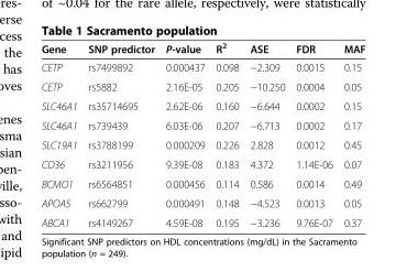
<table><thead><tr><td>Gene</td><td>SNP predictor</td><td>P-value</td><td>R<sup>2</sup></td><td>ASE</td><td>FDR</td><td>MAF</td></tr></thead><tbody><tr><td>CETP</td><td>rs7499892</td><td>0.000437</td><td>0.098</td><td>−2.309</td><td>0.0015</td><td>0.15</td></tr><tr><td>CETP</td><td>rs5882</td><td>2.16E-05</td><td>0.205</td><td>−10.250</td><td>0.0004</td><td>0.05</td></tr><tr><td>SLC46A1</td><td>rs35714695</td><td>2.62E-06</td><td>0.160</td><td>−6.644</td><td>0.0002</td><td>0.15</td></tr><tr><td>SLC46A1</td><td>rs739439</td><td>6.03E-06</td><td>0.207</td><td>−6.713</td><td>0.0002</td><td>0.17</td></tr><tr><td>SLC19A1</td><td>rs3788199</td><td>0.000209</td><td>0.226</td><td>2.828</td><td>0.0012</td><td>0.45</td></tr><tr><td>CD36</td><td>rs3211956</td><td>9.39E-08</td><td>0.183</td><td>4.372</td><td>1.14E-06</td><td>0.07</td></tr><tr><td>BCMO1</td><td>rs6564851</td><td>0.000456</td><td>0.114</td><td>0.586</td><td>0.0014</td><td>0.49</td></tr><tr><td>APOA5</td><td>rs662799</td><td>0.000491</td><td>0.148</td><td>−4.523</td><td>0.0013</td><td>0.05</td></tr><tr><td>ABCA1</td><td>rs4149267</td><td>4.59E-08</td><td>0.195</td><td>−3.236</td><td>9.76E-07</td><td>0.37</td></tr></tbody></table>